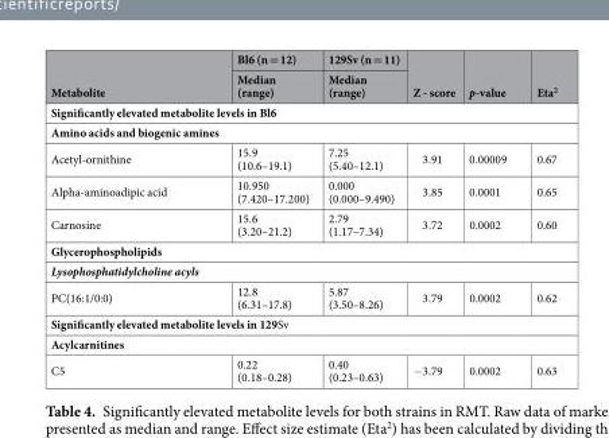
<table><thead><tr><td rowspan="2">Metabolite</td><td rowspan="2">Bl6 (n = 12) Median (range)</td><td rowspan="2">129Sv (n = 11) Median (range)</td><td rowspan="2">Z - score</td><td rowspan="2">p-value</td><td rowspan="2">Eta<sup>2</sup></td></tr><tr></tr></thead><tbody><tr><td colspan="6">Significantly elevated metabolite levels in Bl6</td></tr><tr><td colspan="6">Amino acids and biogenic amines</td></tr><tr><td>Acetyl-ornithine</td><td>15.9 (10.6–19.1)</td><td>7.25 (5.40–12.1)</td><td>3.91</td><td>0.00009</td><td>0.67</td></tr><tr><td>Alpha-aminoadipic acid</td><td>10.950 (7.420–17.200)</td><td>0.000 (0.000–9.490)</td><td>3.85</td><td>0.0001</td><td>0.65</td></tr><tr><td>Carnosine</td><td>15.6 (3.20–21.2)</td><td>2.79 (1.17–7.34)</td><td>3.72</td><td>0.0002</td><td>0.60</td></tr><tr><td colspan="6">Glycerophospholipids</td></tr><tr><td colspan="6">Lysophosphatidylcholine acyls</td></tr><tr><td>PC(16:1/0:0)</td><td>12.8 (6.31–17.8)</td><td>5.87 (3.50–8.26)</td><td>3.79</td><td>0.0002</td><td>0.62</td></tr><tr><td colspan="6">Significantly elevated metabolite levels in 129Sv</td></tr><tr><td colspan="6">Acylcarnitines</td></tr><tr><td>C5</td><td>0.22 (0.18–0.28)</td><td>0.40 (0.23–0.63)</td><td>−3.79</td><td>0.0002</td><td>0.63</td></tr></tbody></table>